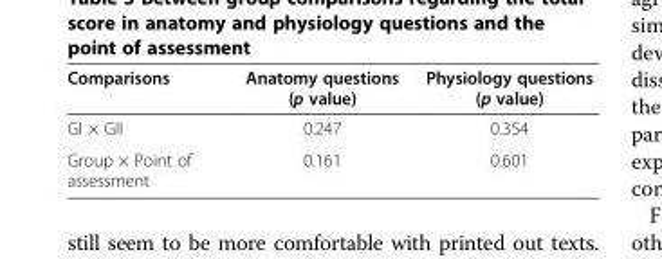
<table><thead><tr><td>Comparisons</td><td>Anatomy questions (p value)</td><td>Physiology questions (p value)</td></tr></thead><tbody><tr><td>GI × GII</td><td>0.247</td><td>0.354</td></tr><tr><td>Group × Point of assessment</td><td>0.161</td><td>0.601</td></tr></tbody></table>